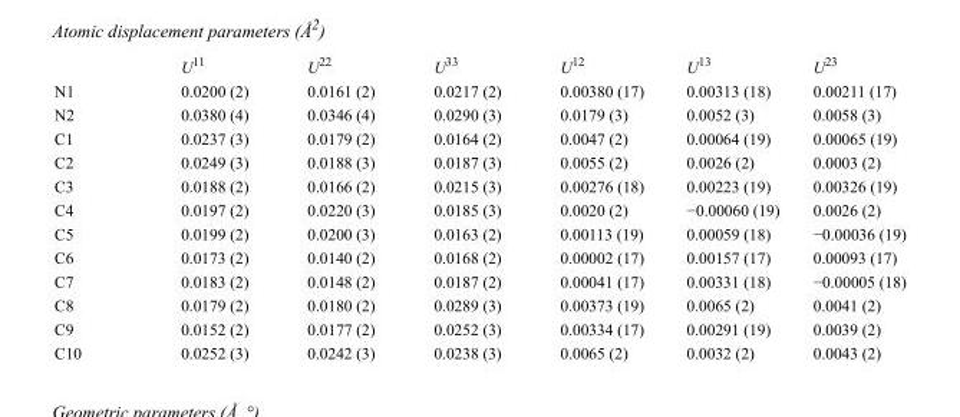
<table><thead><tr><td></td><td>U<sup>11</sup></td><td>U<sup>22</sup></td><td>U<sup>33</sup></td><td>U<sup>12</sup></td><td>U<sup>13</sup></td><td>U<sup>23</sup></td></tr></thead><tbody><tr><td>N1</td><td>0.0200 (2)</td><td>0.0161 (2)</td><td>0.0217 (2)</td><td>0.00380 (17)</td><td>0.00313 (18)</td><td>0.00211 (17)</td></tr><tr><td>N2</td><td>0.0380 (4)</td><td>0.0346 (4)</td><td>0.0290 (3)</td><td>0.0179 (3)</td><td>0.0052 (3)</td><td>0.0058 (3)</td></tr><tr><td>C1</td><td>0.0237 (3)</td><td>0.0179 (2)</td><td>0.0164 (2)</td><td>0.0047 (2)</td><td>0.00064 (19)</td><td>0.00065 (19)</td></tr><tr><td>C2</td><td>0.0249 (3)</td><td>0.0188 (3)</td><td>0.0187 (3)</td><td>0.0055 (2)</td><td>0.0026 (2)</td><td>0.0003 (2)</td></tr><tr><td>C3</td><td>0.0188 (2)</td><td>0.0166 (2)</td><td>0.0215 (3)</td><td>0.00276 (18)</td><td>0.00223 (19)</td><td>0.00326 (19)</td></tr><tr><td>C4</td><td>0.0197 (2)</td><td>0.0220 (3)</td><td>0.0185 (3)</td><td>0.0020 (2)</td><td>−0.00060 (19)</td><td>0.0026 (2)</td></tr><tr><td>C5</td><td>0.0199 (2)</td><td>0.0200 (3)</td><td>0.0163 (2)</td><td>0.00113 (19)</td><td>0.00059 (18)</td><td>−0.00036 (19)</td></tr><tr><td>C6</td><td>0.0173 (2)</td><td>0.0140 (2)</td><td>0.0168 (2)</td><td>0.00002 (17)</td><td>0.00157 (17)</td><td>0.00093 (17)</td></tr><tr><td>C7</td><td>0.0183 (2)</td><td>0.0148 (2)</td><td>0.0187 (2)</td><td>0.00041 (17)</td><td>0.00331 (18)</td><td>−0.00005 (18)</td></tr><tr><td>C8</td><td>0.0179 (2)</td><td>0.0180 (2)</td><td>0.0289 (3)</td><td>0.00373 (19)</td><td>0.0065 (2)</td><td>0.0041 (2)</td></tr><tr><td>C9</td><td>0.0152 (2)</td><td>0.0177 (2)</td><td>0.0252 (3)</td><td>0.00334 (17)</td><td>0.00291 (19)</td><td>0.0039 (2)</td></tr><tr><td>C10</td><td>0.0252 (3)</td><td>0.0242 (3)</td><td>0.0238 (3)</td><td>0.0065 (2)</td><td>0.0032 (2)</td><td>0.0043 (2)</td></tr></tbody></table>